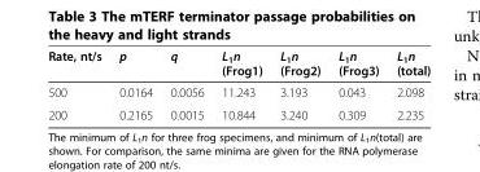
<table><thead><tr><td>Rate, nt/s</td><td>p</td><td>q</td><td>L<sub>1</sub>n (Frog1)</td><td>L<sub>1</sub>n (Frog2)</td><td>L<sub>1</sub>n (Frog3)</td><td>L<sub>1</sub>n (total)</td></tr></thead><tbody><tr><td>500</td><td>0.0164</td><td>0.0056</td><td>11.243</td><td>3.193</td><td>0.043</td><td>2.098</td></tr><tr><td>200</td><td>0.2165</td><td>0.0015</td><td>10.844</td><td>3.240</td><td>0.309</td><td>2.235</td></tr></tbody></table>